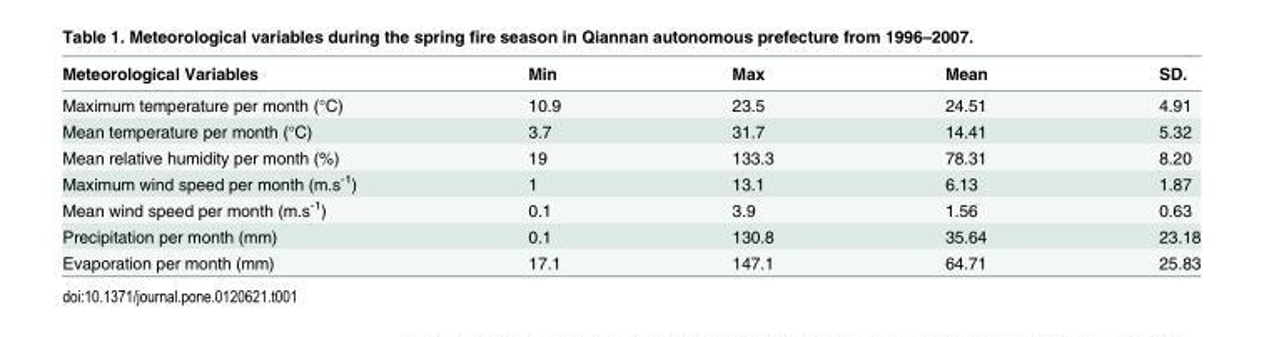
<table><thead><tr><td>Meteorological Variables</td><td>Min</td><td>Max</td><td>Mean</td><td>SD.</td></tr></thead><tbody><tr><td>Maximum temperature per month (°C)</td><td>10.9</td><td>23.5</td><td>24.51</td><td>4.91</td></tr><tr><td>Mean temperature per month (°C)</td><td>3.7</td><td>31.7</td><td>14.41</td><td>5.32</td></tr><tr><td>Mean relative humidity per month (%)</td><td>19</td><td>133.3</td><td>78.31</td><td>8.20</td></tr><tr><td>Maximum wind speed per month (m.s<sup>-1</sup>)</td><td>1</td><td>13.1</td><td>6.13</td><td>1.87</td></tr><tr><td>Mean wind speed per month (m.s<sup>-1</sup>)</td><td>0.1</td><td>3.9</td><td>1.56</td><td>0.63</td></tr><tr><td>Precipitation per month (mm)</td><td>0.1</td><td>130.8</td><td>35.64</td><td>23.18</td></tr><tr><td>Evaporation per month (mm)</td><td>17.1</td><td>147.1</td><td>64.71</td><td>25.83</td></tr></tbody></table>